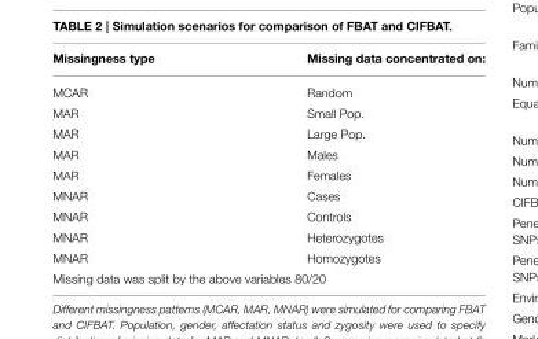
<table><thead><tr><td>Missingness type</td><td>Missing data concentrated on:</td></tr></thead><tbody><tr><td>MCAR</td><td>Random</td></tr><tr><td>MAR</td><td>Small Pop.</td></tr><tr><td>MAR</td><td>Large Pop.</td></tr><tr><td>MAR</td><td>Males</td></tr><tr><td>MAR</td><td>Females</td></tr><tr><td>MNAR</td><td>Cases</td></tr><tr><td>MNAR</td><td>Controls</td></tr><tr><td>MNAR</td><td>Heterozygotes</td></tr><tr><td>MNAR</td><td>Homozygotes</td></tr><tr><td colspan="2">Missing data was split by the above variables 80/20</td></tr></tbody></table>